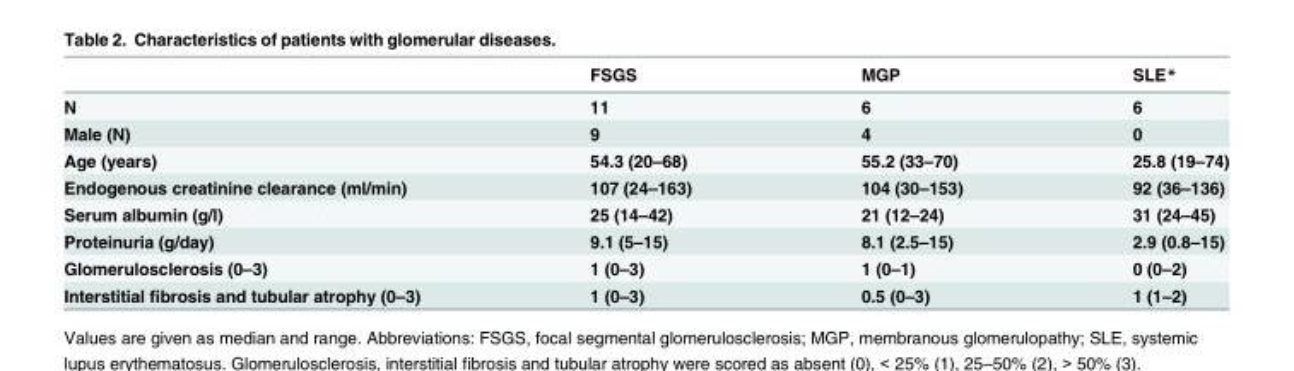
<table><thead><tr><td></td><td>FSGS</td><td>MGP</td><td>SLE*</td></tr></thead><tbody><tr><td>N</td><td>11</td><td>6</td><td>6</td></tr><tr><td>Male (N)</td><td>9</td><td>4</td><td>0</td></tr><tr><td>Age (years)</td><td>54.3 (20–68)</td><td>55.2 (33–70)</td><td>25.8 (19–74)</td></tr><tr><td>Endogenous creatinine clearance (ml/min)</td><td>107 (24–163)</td><td>104 (30–153)</td><td>92 (36–136)</td></tr><tr><td>Serum albumin (g/l)</td><td>25 (14–42)</td><td>21 (12–24)</td><td>31 (24–45)</td></tr><tr><td>Proteinuria (g/day)</td><td>9.1 (5–15)</td><td>8.1 (2.5–15)</td><td>2.9 (0.8–15)</td></tr><tr><td>Glomerulosclerosis (0–3)</td><td>1 (0–3)</td><td>1 (0–1)</td><td>0 (0–2)</td></tr><tr><td>Interstitial fibrosis and tubular atrophy (0–3)</td><td>1 (0–3)</td><td>0.5 (0–3)</td><td>1 (1–2)</td></tr></tbody></table>